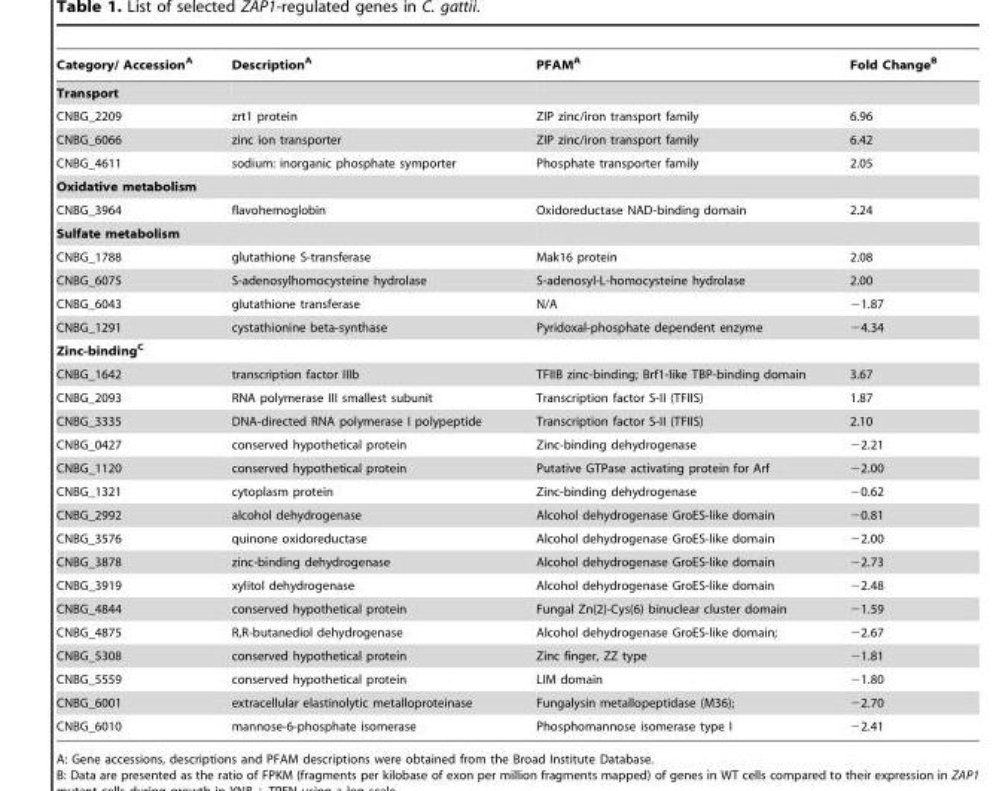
<table><thead><tr><td>Category/ Accession<sup>A</sup></td><td>Description<sup>A</sup></td><td>PFAM<sup>A</sup></td><td>Fold Change<sup>B</sup></td></tr></thead><tbody><tr><td colspan="4">Transport</td></tr><tr><td>CNBG_2209</td><td>zrt1 protein</td><td>ZIP zinc/iron transport family</td><td>6.96</td></tr><tr><td>CNBG_6066</td><td>zinc ion transporter</td><td>ZIP zinc/iron transport family</td><td>6.42</td></tr><tr><td>CNBG_4611</td><td>sodium: inorganic phosphate symporter</td><td>Phosphate transporter family</td><td>2.05</td></tr><tr><td colspan="4">Oxidative metabolism</td></tr><tr><td>CNBG_3964</td><td>flavohemoglobin</td><td>Oxidoreductase NAD-binding domain</td><td>2.24</td></tr><tr><td colspan="4">Sulfate metabolism</td></tr><tr><td>CNBG_1788</td><td>glutathione S-transferase</td><td>Mak16 protein</td><td>2.08</td></tr><tr><td>CNBG_6075</td><td>S-adenosylhomocysteine hydrolase</td><td>S-adenosyl-L-homocysteine hydrolase</td><td>2.00</td></tr><tr><td>CNBG_6043</td><td>glutathione transferase</td><td>N/A</td><td>−1.87</td></tr><tr><td>CNBG_1291</td><td>cystathionine beta-synthase</td><td>Pyridoxal-phosphate dependent enzyme</td><td>−4.34</td></tr><tr><td colspan="4">Zinc-binding<sup>C</sup></td></tr><tr><td>CNBG_1642</td><td>transcription factor IIIb</td><td>TFIIB zinc-binding; Brf1-like TBP-binding domain</td><td>3.67</td></tr><tr><td>CNBG_2093</td><td>RNA polymerase III smallest subunit</td><td>Transcription factor S-II (TFIIS)</td><td>1.87</td></tr><tr><td>CNBG_3335</td><td>DNA-directed RNA polymerase I polypeptide</td><td>Transcription factor S-II (TFIIS)</td><td>2.10</td></tr><tr><td>CNBG_0427</td><td>conserved hypothetical protein</td><td>Zinc-binding dehydrogenase</td><td>−2.21</td></tr><tr><td>CNBG_1120</td><td>conserved hypothetical protein</td><td>Putative GTPase activating protein for Arf</td><td>−2.00</td></tr><tr><td>CNBG_1321</td><td>cytoplasm protein</td><td>Zinc-binding dehydrogenase</td><td>−0.62</td></tr><tr><td>CNBG_2992</td><td>alcohol dehydrogenase</td><td>Alcohol dehydrogenase GroES-like domain</td><td>−0.81</td></tr><tr><td>CNBG_3576</td><td>quinone oxidoreductase</td><td>Alcohol dehydrogenase GroES-like domain</td><td>−2.00</td></tr><tr><td>CNBG_3878</td><td>zinc-binding dehydrogenase</td><td>Alcohol dehydrogenase GroES-like domain</td><td>−2.73</td></tr><tr><td>CNBG_3919</td><td>xylitol dehydrogenase</td><td>Alcohol dehydrogenase GroES-like domain</td><td>−2.48</td></tr><tr><td>CNBG_4844</td><td>conserved hypothetical protein</td><td>Fungal Zn(2)-Cys(6) binuclear cluster domain</td><td>−1.59</td></tr><tr><td>CNBG_4875</td><td>R,R-butanediol dehydrogenase</td><td>Alcohol dehydrogenase GroES-like domain;</td><td>−2.67</td></tr><tr><td>CNBG_5308</td><td>conserved hypothetical protein</td><td>Zinc finger, ZZ type</td><td>−1.81</td></tr><tr><td>CNBG_5559</td><td>conserved hypothetical protein</td><td>LIM domain</td><td>−1.80</td></tr><tr><td>CNBG_6001</td><td>extracellular elastinolytic metalloproteinase</td><td>Fungalysin metallopeptidase (M36);</td><td>−2.70</td></tr><tr><td>CNBG_6010</td><td>mannose-6-phosphate isomerase</td><td>Phosphomannose isomerase type I</td><td>−2.41</td></tr></tbody></table>